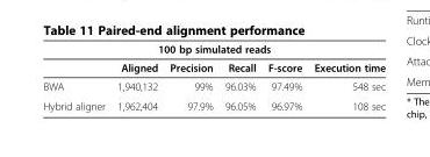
<table><thead><tr><td colspan="6">100 bp simulated reads</td></tr><tr><td></td><td>Aligned</td><td>Precision</td><td>Recall</td><td>F-score</td><td>Execution time</td></tr></thead><tbody><tr><td>BWA</td><td>1,940,132</td><td>99%</td><td>96.03%</td><td>97.49%</td><td>548 sec</td></tr><tr><td>Hybrid aligner</td><td>1,962,404</td><td>97.9%</td><td>96.05%</td><td>96.97%</td><td>108 sec</td></tr></tbody></table>